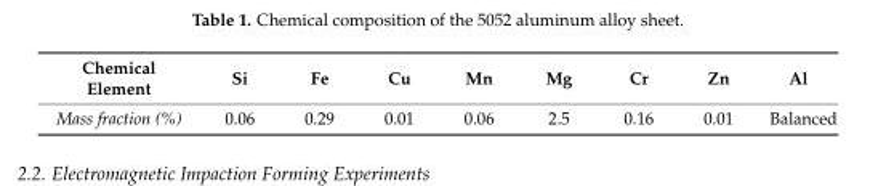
<table><thead><tr><td>Chemical Element</td><td>Si</td><td>Fe</td><td>Cu</td><td>Mn</td><td>Mg</td><td>Cr</td><td>Zn</td><td>Al</td></tr></thead><tbody><tr><td>Mass fraction (%)</td><td>0.06</td><td>0.29</td><td>0.01</td><td>0.06</td><td>2.5</td><td>0.16</td><td>0.01</td><td>Balanced</td></tr></tbody></table>